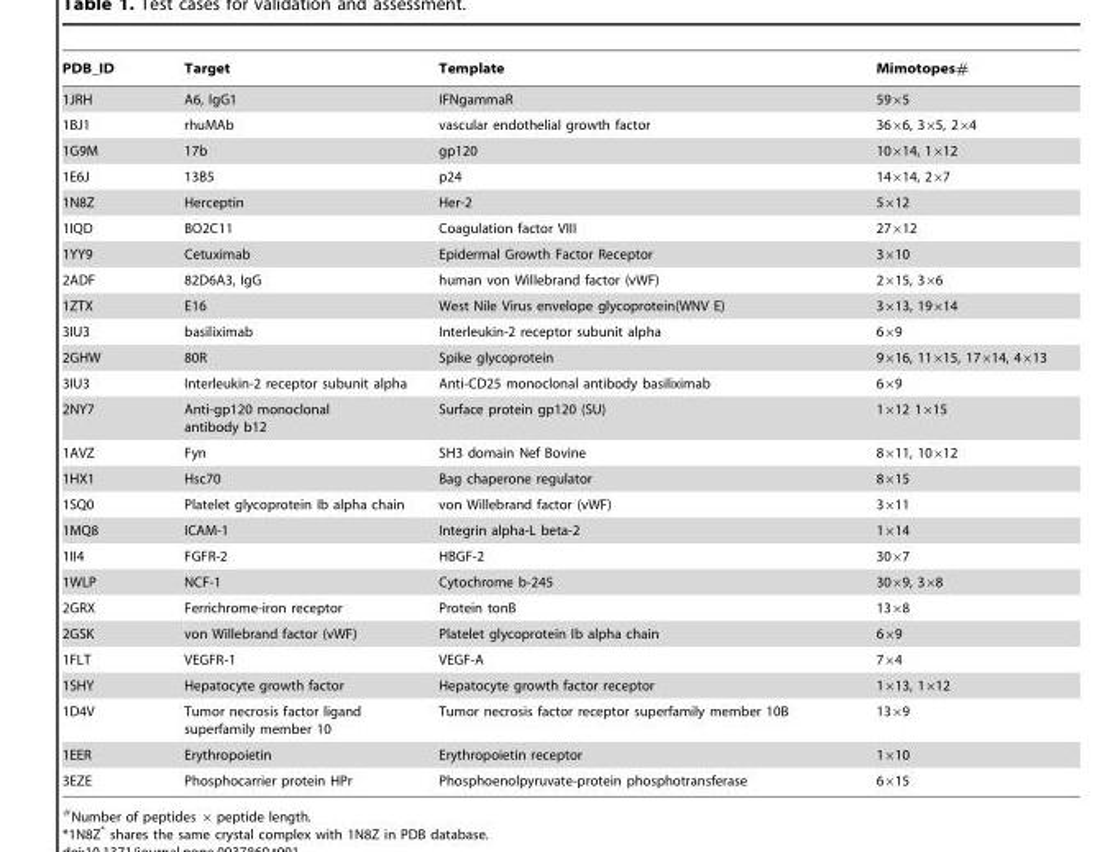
<table><thead><tr><td>PDB_ID</td><td>Target</td><td>Template</td><td>Mimotopes#</td></tr></thead><tbody><tr><td>1JRH</td><td>A6, IgG1</td><td>IFNgammaR</td><td>59×5</td></tr><tr><td>1BJ1</td><td>rhuMAb</td><td>vascular endothelial growth factor</td><td>36×6, 3×5, 2×4</td></tr><tr><td>1G9M</td><td>17b</td><td>gp120</td><td>10×14, 1×12</td></tr><tr><td>1E6J</td><td>13B5</td><td>p24</td><td>14×14, 2×7</td></tr><tr><td>1N8Z</td><td>Herceptin</td><td>Her-2</td><td>5×12</td></tr><tr><td>1IQD</td><td>BO2C11</td><td>Coagulation factor VIII</td><td>27×12</td></tr><tr><td>1YY9</td><td>Cetuximab</td><td>Epidermal Growth Factor Receptor</td><td>3×10</td></tr><tr><td>2ADF</td><td>82D6A3, IgG</td><td>human von Willebrand factor (vWF)</td><td>2×15, 3×6</td></tr><tr><td>1ZTX</td><td>E16</td><td>West Nile Virus envelope glycoprotein(WNV E)</td><td>3×13, 19×14</td></tr><tr><td>3IU3</td><td>basiliximab</td><td>Interleukin-2 receptor subunit alpha</td><td>6×9</td></tr><tr><td>2GHW</td><td>80R</td><td>Spike glycoprotein</td><td>9×16, 11×15, 17×14, 4×13</td></tr><tr><td>3IU3</td><td>Interleukin-2 receptor subunit alpha</td><td>Anti-CD25 monoclonal antibody basiliximab</td><td>6×9</td></tr><tr><td>2NY7</td><td>Anti-gp120 monoclonal antibody b12</td><td>Surface protein gp120 (SU)</td><td>1×12 1×15</td></tr><tr><td>1AVZ</td><td>Fyn</td><td>SH3 domain Nef Bovine</td><td>8×11, 10×12</td></tr><tr><td>1HX1</td><td>Hsc70</td><td>Bag chaperone regulator</td><td>8×15</td></tr><tr><td>1SQ0</td><td>Platelet glycoprotein Ib alpha chain</td><td>von Willebrand factor (vWF)</td><td>3×11</td></tr><tr><td>1MQ8</td><td>ICAM-1</td><td>Integrin alpha-L beta-2</td><td>1×14</td></tr><tr><td>1II4</td><td>FGFR-2</td><td>HBGF-2</td><td>30×7</td></tr><tr><td>1WLP</td><td>NCF-1</td><td>Cytochrome b-245</td><td>30×9, 3×8</td></tr><tr><td>2GRX</td><td>Ferrichrome-iron receptor</td><td>Protein tonB</td><td>13×8</td></tr><tr><td>2GSK</td><td>von Willebrand factor (vWF)</td><td>Platelet glycoprotein Ib alpha chain</td><td>6×9</td></tr><tr><td>1FLT</td><td>VEGFR-1</td><td>VEGF-A</td><td>7×4</td></tr><tr><td>1SHY</td><td>Hepatocyte growth factor</td><td>Hepatocyte growth factor receptor</td><td>1×13, 1×12</td></tr><tr><td>1D4V</td><td>Tumor necrosis factor ligand superfamily member 10</td><td>Tumor necrosis factor receptor superfamily member 10B</td><td>13×9</td></tr><tr><td>1EER</td><td>Erythropoietin</td><td>Erythropoietin receptor</td><td>1×10</td></tr><tr><td>3EZE</td><td>Phosphocarrier protein HPr</td><td>Phosphoenolpyruvate-protein phosphotransferase</td><td>6×15</td></tr></tbody></table>